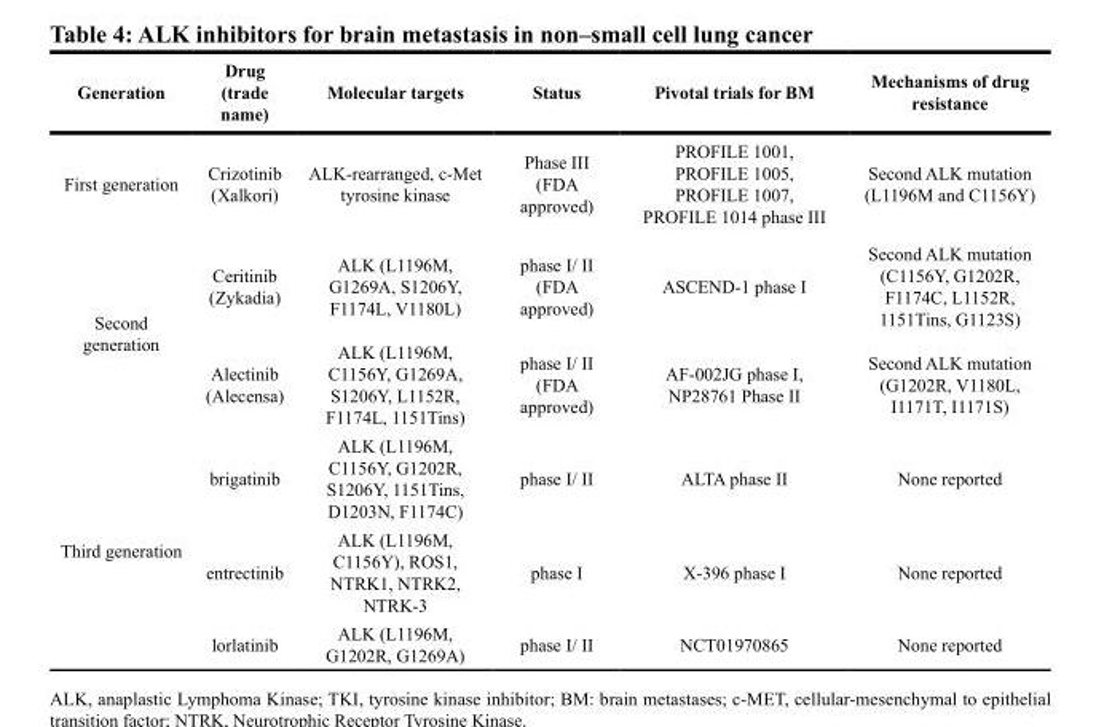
<table><thead><tr><td>Generation</td><td>Drug (trade name)</td><td>Molecular targets</td><td>Status</td><td>Pivotal trials for BM</td><td>Mechanisms of drug resistance</td></tr></thead><tbody><tr><td>First generation</td><td>Crizotinib (Xalkori)</td><td>ALK-rearranged, c-Met tyrosine kinase</td><td>Phase III (FDA approved)</td><td>PROFILE 1001, PROFILE 1005, PROFILE 1007, PROFILE 1014 phase III</td><td>Second ALK mutation (L1196M and C1156Y)</td></tr><tr><td rowspan="2">Second generation</td><td>Ceritinib (Zykadia)</td><td>ALK (L1196M, G1269A, S1206Y, F1174L, V1180L)</td><td>phase I/ II (FDA approved)</td><td>ASCEND-1 phase I</td><td>Second ALK mutation (C1156Y, G1202R, F1174C, L1152R, 1151Tins, G1123S)</td></tr><tr><td>Alectinib (Alecensa)</td><td>ALK (L1196M, C1156Y, G1269A, S1206Y, L1152R, F1174L, 1151Tins)</td><td>phase I/ II (FDA approved)</td><td>AF-002JG phase I, NP28761 Phase II</td><td>Second ALK mutation (G1202R, V1180L, I1171T, I1171S)</td></tr><tr><td rowspan="3">Third generation</td><td>brigatinib</td><td>ALK (L1196M, C1156Y, G1202R, S1206Y, 1151Tins, D1203N, F1174C)</td><td>phase I/ II</td><td>ALTA phase II</td><td>None reported</td></tr><tr><td>entrectinib</td><td>ALK (L1196M, C1156Y), ROS1, NTRK1, NTRK2, NTRK-3</td><td>phase I</td><td>X-396 phase I</td><td>None reported</td></tr><tr><td>lorlatinib</td><td>ALK (L1196M, G1202R, G1269A)</td><td>phase I/ II</td><td>NCT01970865</td><td>None reported</td></tr></tbody></table>